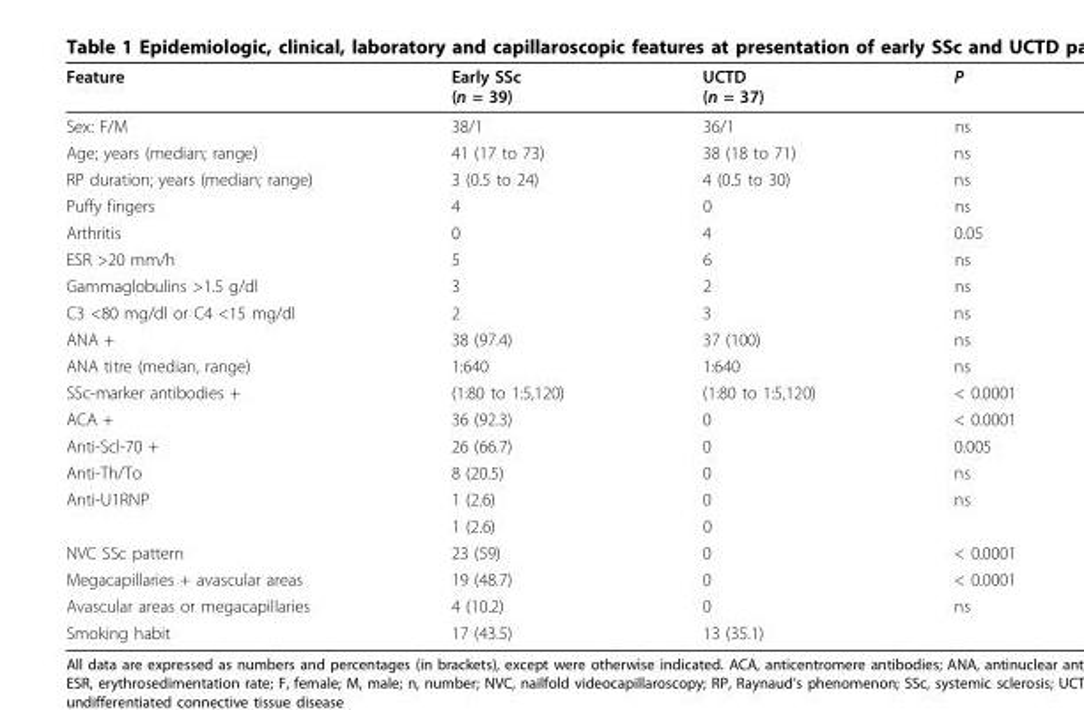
<table><thead><tr><td>Feature</td><td>Early SSc (n = 39)</td><td>UCTD (n = 37)</td><td>P</td></tr></thead><tbody><tr><td>Sex: F/M</td><td>38/1</td><td>36/1</td><td>ns</td></tr><tr><td>Age; years (median; range)</td><td>41 (17 to 73)</td><td>38 (18 to 71)</td><td>ns</td></tr><tr><td>RP duration; years (median; range)</td><td>3 (0.5 to 24)</td><td>4 (0.5 to 30)</td><td>ns</td></tr><tr><td>Puffy fingers</td><td>4</td><td>0</td><td>ns</td></tr><tr><td>Arthritis</td><td>0</td><td>4</td><td>0.05</td></tr><tr><td>ESR &gt;20 mm/h</td><td>5</td><td>6</td><td>ns</td></tr><tr><td>Gammaglobulins &gt;1.5 g/dl</td><td>3</td><td>2</td><td>ns</td></tr><tr><td>C3 &lt;80 mg/dl or C4 &lt;15 mg/dl</td><td>2</td><td>3</td><td>ns</td></tr><tr><td>ANA +</td><td>38 (97.4)</td><td>37 (100)</td><td>ns</td></tr><tr><td>ANA titre (median, range)</td><td>1:640</td><td>1:640</td><td>ns</td></tr><tr><td>SSc-marker antibodies +</td><td>(1:80 to 1:5,120)</td><td>(1:80 to 1:5,120)</td><td>&lt; 0.0001</td></tr><tr><td>ACA +</td><td>36 (92.3)</td><td>0</td><td>&lt; 0.0001</td></tr><tr><td>Anti-Scl-70 +</td><td>26 (66.7)</td><td>0</td><td>0.005</td></tr><tr><td>Anti-Th/To</td><td>8 (20.5)</td><td>0</td><td>ns</td></tr><tr><td rowspan="2">Anti-U1RNP</td><td>1 (2.6)</td><td>0</td><td>ns</td></tr><tr><td>1 (2.6)</td><td>0</td><td></td></tr><tr><td>NVC SSc pattern</td><td>23 (59)</td><td>0</td><td>&lt; 0.0001</td></tr><tr><td>Megacapillaries + avascular areas</td><td>19 (48.7)</td><td>0</td><td>&lt; 0.0001</td></tr><tr><td>Avascular areas or megacapillaries</td><td>4 (10.2)</td><td>0</td><td>ns</td></tr><tr><td>Smoking habit</td><td>17 (43.5)</td><td>13 (35.1)</td><td></td></tr></tbody></table>